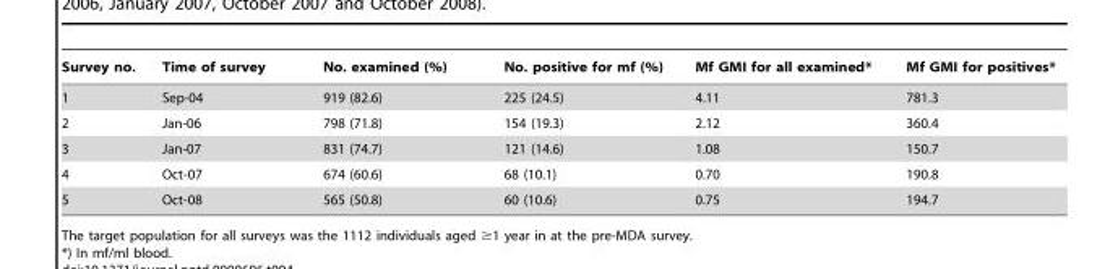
<table><thead><tr><td>Survey no.</td><td>Time of survey</td><td>No. examined (%)</td><td>No. positive for mf (%)</td><td>Mf GMI for all examined*</td><td>Mf GMI for positives*</td></tr></thead><tbody><tr><td>1</td><td>Sep-04</td><td>919 (82.6)</td><td>225 (24.5)</td><td>4.11</td><td>781.3</td></tr><tr><td>2</td><td>Jan-06</td><td>798 (71.8)</td><td>154 (19.3)</td><td>2.12</td><td>360.4</td></tr><tr><td>3</td><td>Jan-07</td><td>831 (74.7)</td><td>121 (14.6)</td><td>1.08</td><td>150.7</td></tr><tr><td>4</td><td>Oct-07</td><td>674 (60.6)</td><td>68 (10.1)</td><td>0.70</td><td>190.8</td></tr><tr><td>5</td><td>Oct-08</td><td>565 (50.8)</td><td>60 (10.6)</td><td>0.75</td><td>194.7</td></tr></tbody></table>